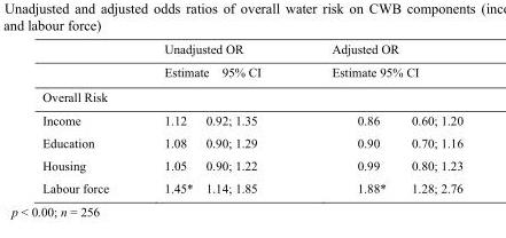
<table><thead><tr><td rowspan="2"></td><td rowspan="2">Unadjusted OR Estimate 95% CI</td><td rowspan="2">Adjusted OR Estimate 95% CI</td></tr><tr></tr></thead><tbody><tr><td colspan="3">Overall Risk</td></tr><tr><td>Income</td><td>1.12 0.92; 1.35</td><td>0.86 0.60; 1.20</td></tr><tr><td>Education</td><td>1.08 0.90; 1.29</td><td>0.90 0.70; 1.16</td></tr><tr><td>Housing</td><td>1.05 0.90; 1.22</td><td>0.99 0.80; 1.23</td></tr><tr><td>Labour force</td><td>1.45* 1.14; 1.85</td><td>1.88* 1.28; 2.76</td></tr></tbody></table>